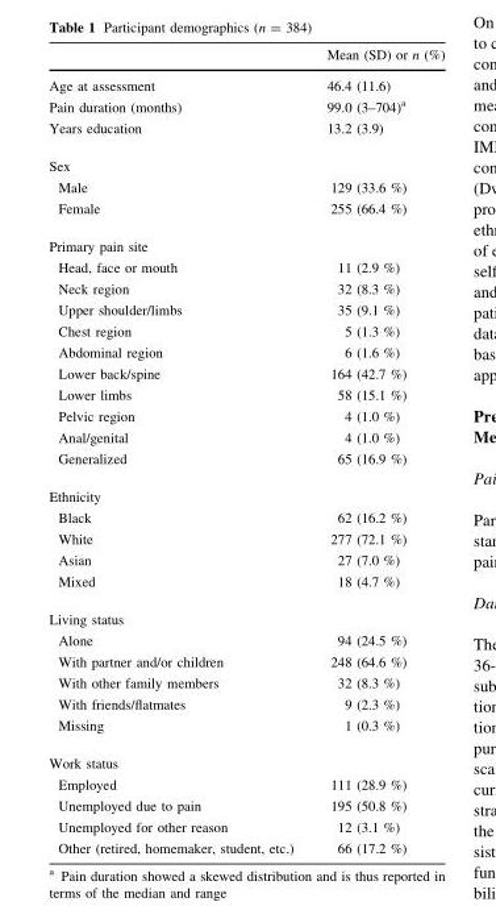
<table><thead><tr><td></td><td>Mean (SD) or n (%)</td></tr></thead><tbody><tr><td>Age at assessment</td><td>46.4 (11.6)</td></tr><tr><td>Pain duration (months)</td><td>99.0 (3–704)<sup>a</sup></td></tr><tr><td>Years education</td><td>13.2 (3.9)</td></tr><tr><td colspan="2">Sex</td></tr><tr><td>Male</td><td>129 (33.6 %)</td></tr><tr><td>Female</td><td>255 (66.4 %)</td></tr><tr><td colspan="2">Primary pain site</td></tr><tr><td>Head, face or mouth</td><td>11 (2.9 %)</td></tr><tr><td>Neck region</td><td>32 (8.3 %)</td></tr><tr><td>Upper shoulder/limbs</td><td>35 (9.1 %)</td></tr><tr><td>Chest region</td><td>5 (1.3 %)</td></tr><tr><td>Abdominal region</td><td>6 (1.6 %)</td></tr><tr><td>Lower back/spine</td><td>164 (42.7 %)</td></tr><tr><td>Lower limbs</td><td>58 (15.1 %)</td></tr><tr><td>Pelvic region</td><td>4 (1.0 %)</td></tr><tr><td>Anal/genital</td><td>4 (1.0 %)</td></tr><tr><td>Generalized</td><td>65 (16.9 %)</td></tr><tr><td colspan="2">Ethnicity</td></tr><tr><td>Black</td><td>62 (16.2 %)</td></tr><tr><td>White</td><td>277 (72.1 %)</td></tr><tr><td>Asian</td><td>27 (7.0 %)</td></tr><tr><td>Mixed</td><td>18 (4.7 %)</td></tr><tr><td colspan="2">Living status</td></tr><tr><td>Alone</td><td>94 (24.5 %)</td></tr><tr><td>With partner and/or children</td><td>248 (64.6 %)</td></tr><tr><td>With other family members</td><td>32 (8.3 %)</td></tr><tr><td>With friends/flatmates</td><td>9 (2.3 %)</td></tr><tr><td>Missing</td><td>1 (0.3 %)</td></tr><tr><td colspan="2">Work status</td></tr><tr><td>Employed</td><td>111 (28.9 %)</td></tr><tr><td>Unemployed due to pain</td><td>195 (50.8 %)</td></tr><tr><td>Unemployed for other reason</td><td>12 (3.1 %)</td></tr><tr><td>Other (retired, homemaker, student, etc.)</td><td>66 (17.2 %)</td></tr></tbody></table>